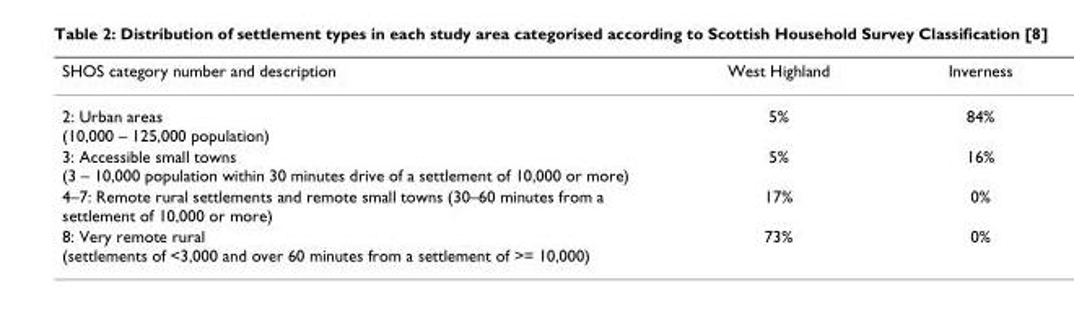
<table><thead><tr><td>SHOS category number and description</td><td>West Highland</td><td>Inverness</td></tr></thead><tbody><tr><td>2: Urban areas (10,000 – 125,000 population)</td><td>5%</td><td>84%</td></tr><tr><td>3: Accessible small towns (3 – 10,000 population within 30 minutes drive of a settlement of 10,000 or more)</td><td>5%</td><td>16%</td></tr><tr><td>4–7: Remote rural settlements and remote small towns (30–60 minutes from a settlement of 10,000 or more)</td><td>17%</td><td>0%</td></tr><tr><td>8: Very remote rural (settlements of &lt;3,000 and over 60 minutes from a settlement of &gt;= 10,000)</td><td>73%</td><td>0%</td></tr></tbody></table>